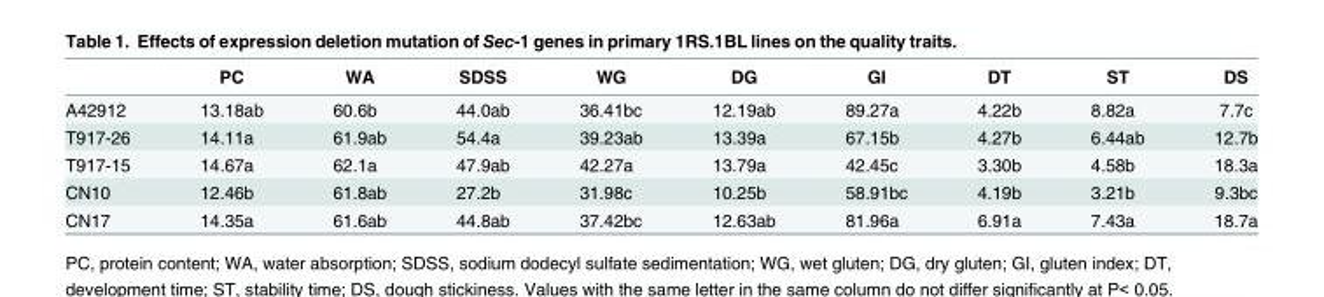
<table><thead><tr><td></td><td>PC</td><td>WA</td><td>SDSS</td><td>WG</td><td>DG</td><td>GI</td><td>DT</td><td>ST</td><td>DS</td></tr></thead><tbody><tr><td>A42912</td><td>13.18ab</td><td>60.6b</td><td>44.0ab</td><td>36.41bc</td><td>12.19ab</td><td>89.27a</td><td>4.22b</td><td>8.82a</td><td>7.7c</td></tr><tr><td>T917-26</td><td>14.11a</td><td>61.9ab</td><td>54.4a</td><td>39.23ab</td><td>13.39a</td><td>67.15b</td><td>4.27b</td><td>6.44ab</td><td>12.7b</td></tr><tr><td>T917-15</td><td>14.67a</td><td>62.1a</td><td>47.9ab</td><td>42.27a</td><td>13.79a</td><td>42.45c</td><td>3.30b</td><td>4.58b</td><td>18.3a</td></tr><tr><td>CN10</td><td>12.46b</td><td>61.8ab</td><td>27.2b</td><td>31.98c</td><td>10.25b</td><td>58.91bc</td><td>4.19b</td><td>3.21b</td><td>9.3bc</td></tr><tr><td>CN17</td><td>14.35a</td><td>61.6ab</td><td>44.8ab</td><td>37.42bc</td><td>12.63ab</td><td>81.96a</td><td>6.91a</td><td>7.43a</td><td>18.7a</td></tr></tbody></table>